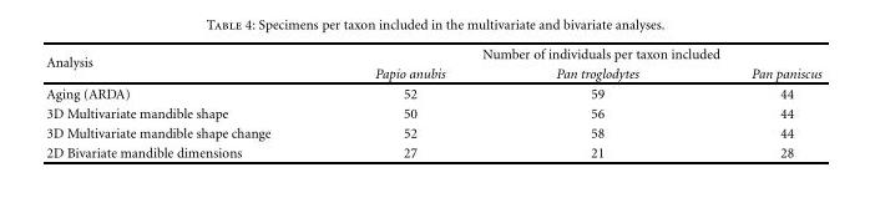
<table><thead><tr><td rowspan="2">Analysis</td><td colspan="3">Number of individuals per taxon included</td></tr><tr><td>Papio anubis</td><td>Pan troglodytes</td><td>Pan paniscus</td></tr></thead><tbody><tr><td>Aging (ARDA)</td><td>52</td><td>59</td><td>44</td></tr><tr><td>3D Multivariate mandible shape</td><td>50</td><td>56</td><td>44</td></tr><tr><td>3D Multivariate mandible shape change</td><td>52</td><td>58</td><td>44</td></tr><tr><td>2D Bivariate mandible dimensions</td><td>27</td><td>21</td><td>28</td></tr></tbody></table>